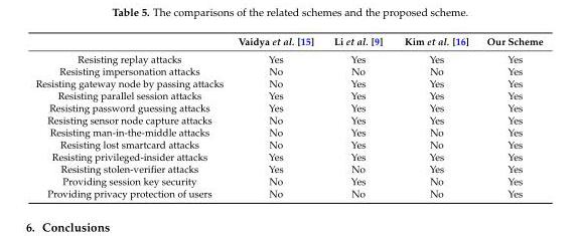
<table><thead><tr><td></td><td>Vaidya et al. [15]</td><td>Li et al. [9]</td><td>Kim et al. [16]</td><td>Our Scheme</td></tr></thead><tbody><tr><td>Resisting replay attacks</td><td>Yes</td><td>Yes</td><td>Yes</td><td>Yes</td></tr><tr><td>Resisting impersonation attacks</td><td>No</td><td>No</td><td>No</td><td>Yes</td></tr><tr><td>Resisting gateway node by passing attacks</td><td>No</td><td>Yes</td><td>Yes</td><td>Yes</td></tr><tr><td>Resisting parallel session attacks</td><td>Yes</td><td>Yes</td><td>Yes</td><td>Yes</td></tr><tr><td>Resisting password guessing attacks</td><td>Yes</td><td>Yes</td><td>Yes</td><td>Yes</td></tr><tr><td>Resisting sensor node capture attacks</td><td>No</td><td>Yes</td><td>Yes</td><td>Yes</td></tr><tr><td>Resisting man-in-the-middle attacks</td><td>No</td><td>Yes</td><td>No</td><td>Yes</td></tr><tr><td>Resisting lost smartcard attacks</td><td>No</td><td>Yes</td><td>No</td><td>Yes</td></tr><tr><td>Resisting privileged-insider attacks</td><td>Yes</td><td>Yes</td><td>Yes</td><td>Yes</td></tr><tr><td>Resisting stolen-verifier attacks</td><td>Yes</td><td>No</td><td>Yes</td><td>Yes</td></tr><tr><td>Providing session key security</td><td>No</td><td>Yes</td><td>No</td><td>Yes</td></tr><tr><td>Providing privacy protection of users</td><td>No</td><td>No</td><td>No</td><td>Yes</td></tr></tbody></table>